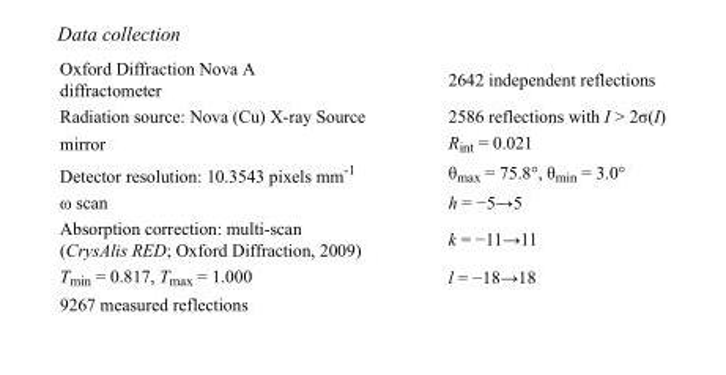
<table><tbody><tr><td>Oxford Diffraction Nova A diffractometer</td><td>2642 independent reflections</td></tr><tr><td>Radiation source: Nova (Cu) X-ray Source</td><td>2586 reflections with I &gt; 2σ(I)</td></tr><tr><td>mirror</td><td>R<sub>int</sub> = 0.021</td></tr><tr><td>Detector resolution: 10.3543 pixels mm<sup>-1</sup></td><td>θ<sub>max</sub> = 75.8°, θ<sub>min</sub> = 3.0°</td></tr><tr><td>ω scan</td><td>h = −5→5</td></tr><tr><td>Absorption correction: multi-scan (CrysAlis RED; Oxford Diffraction, 2009)</td><td>k = −11→11</td></tr><tr><td>T<sub>min</sub> = 0.817, T<sub>max</sub> = 1.000</td><td>l = −18→18</td></tr><tr><td>9267 measured reflections</td><td></td></tr></tbody></table>